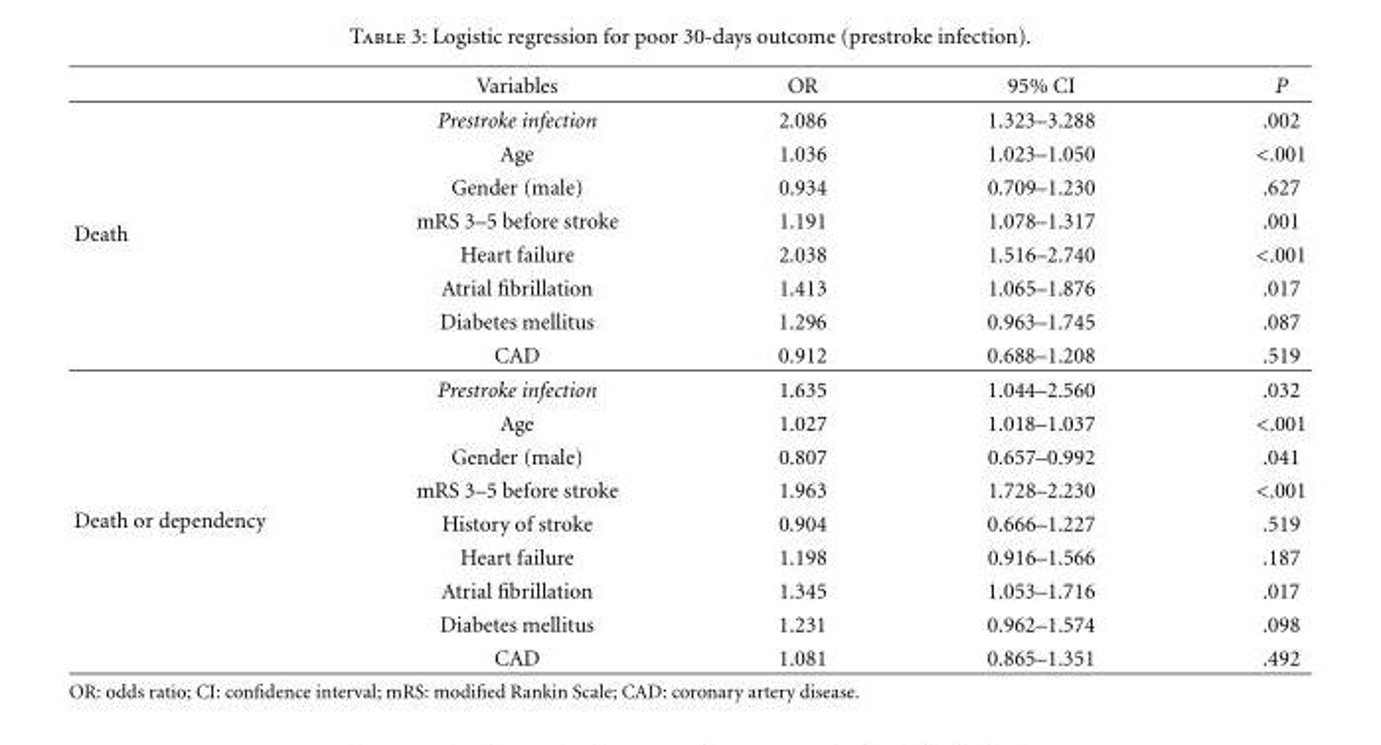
<table><thead><tr><td></td><td>Variables</td><td>OR</td><td>95% CI</td><td>P</td></tr></thead><tbody><tr><td rowspan="8">Death</td><td>Prestroke infection</td><td>2.086</td><td>1.323–3.288</td><td>.002</td></tr><tr><td>Age</td><td>1.036</td><td>1.023–1.050</td><td>&lt;.001</td></tr><tr><td>Gender (male)</td><td>0.934</td><td>0.709–1.230</td><td>.627</td></tr><tr><td>mRS 3–5 before stroke</td><td>1.191</td><td>1.078–1.317</td><td>.001</td></tr><tr><td>Heart failure</td><td>2.038</td><td>1.516–2.740</td><td>&lt;.001</td></tr><tr><td>Atrial fibrillation</td><td>1.413</td><td>1.065–1.876</td><td>.017</td></tr><tr><td>Diabetes mellitus</td><td>1.296</td><td>0.963–1.745</td><td>.087</td></tr><tr><td>CAD</td><td>0.912</td><td>0.688–1.208</td><td>.519</td></tr><tr><td rowspan="9">Death or dependency</td><td>Prestroke infection</td><td>1.635</td><td>1.044–2.560</td><td>.032</td></tr><tr><td>Age</td><td>1.027</td><td>1.018–1.037</td><td>&lt;.001</td></tr><tr><td>Gender (male)</td><td>0.807</td><td>0.657–0.992</td><td>.041</td></tr><tr><td>mRS 3–5 before stroke</td><td>1.963</td><td>1.728–2.230</td><td>&lt;.001</td></tr><tr><td>History of stroke</td><td>0.904</td><td>0.666–1.227</td><td>.519</td></tr><tr><td>Heart failure</td><td>1.198</td><td>0.916–1.566</td><td>.187</td></tr><tr><td>Atrial fibrillation</td><td>1.345</td><td>1.053–1.716</td><td>.017</td></tr><tr><td>Diabetes mellitus</td><td>1.231</td><td>0.962–1.574</td><td>.098</td></tr><tr><td>CAD</td><td>1.081</td><td>0.865–1.351</td><td>.492</td></tr></tbody></table>